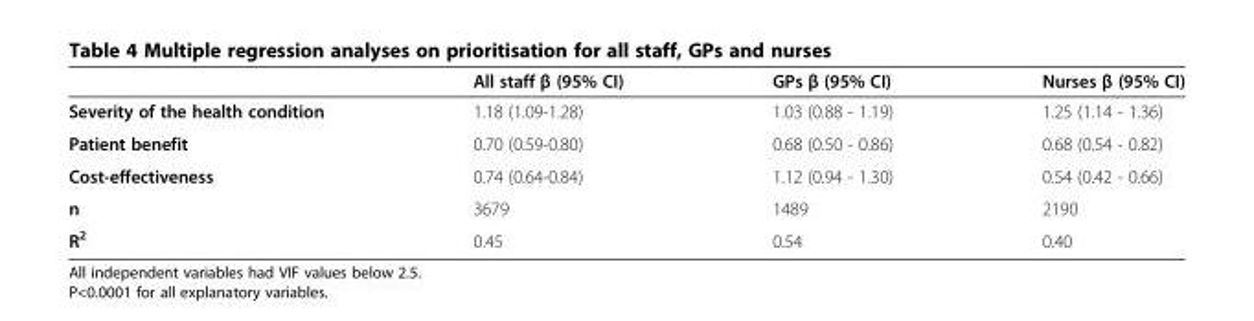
<table><thead><tr><td></td><td>All staff β (95% CI)</td><td>GPs β (95% CI)</td><td>Nurses β (95% CI)</td></tr></thead><tbody><tr><td>Severity of the health condition</td><td>1.18 (1.09-1.28)</td><td>1.03 (0.88 - 1.19)</td><td>1.25 (1.14 - 1.36)</td></tr><tr><td>Patient benefit</td><td>0.70 (0.59-0.80)</td><td>0.68 (0.50 - 0.86)</td><td>0.68 (0.54 - 0.82)</td></tr><tr><td>Cost-effectiveness</td><td>0.74 (0.64-0.84)</td><td>1.12 (0.94 - 1.30)</td><td>0.54 (0.42 - 0.66)</td></tr><tr><td>n</td><td>3679</td><td>1489</td><td>2190</td></tr><tr><td>R<sup>2</sup></td><td>0.45</td><td>0.54</td><td>0.40</td></tr></tbody></table>